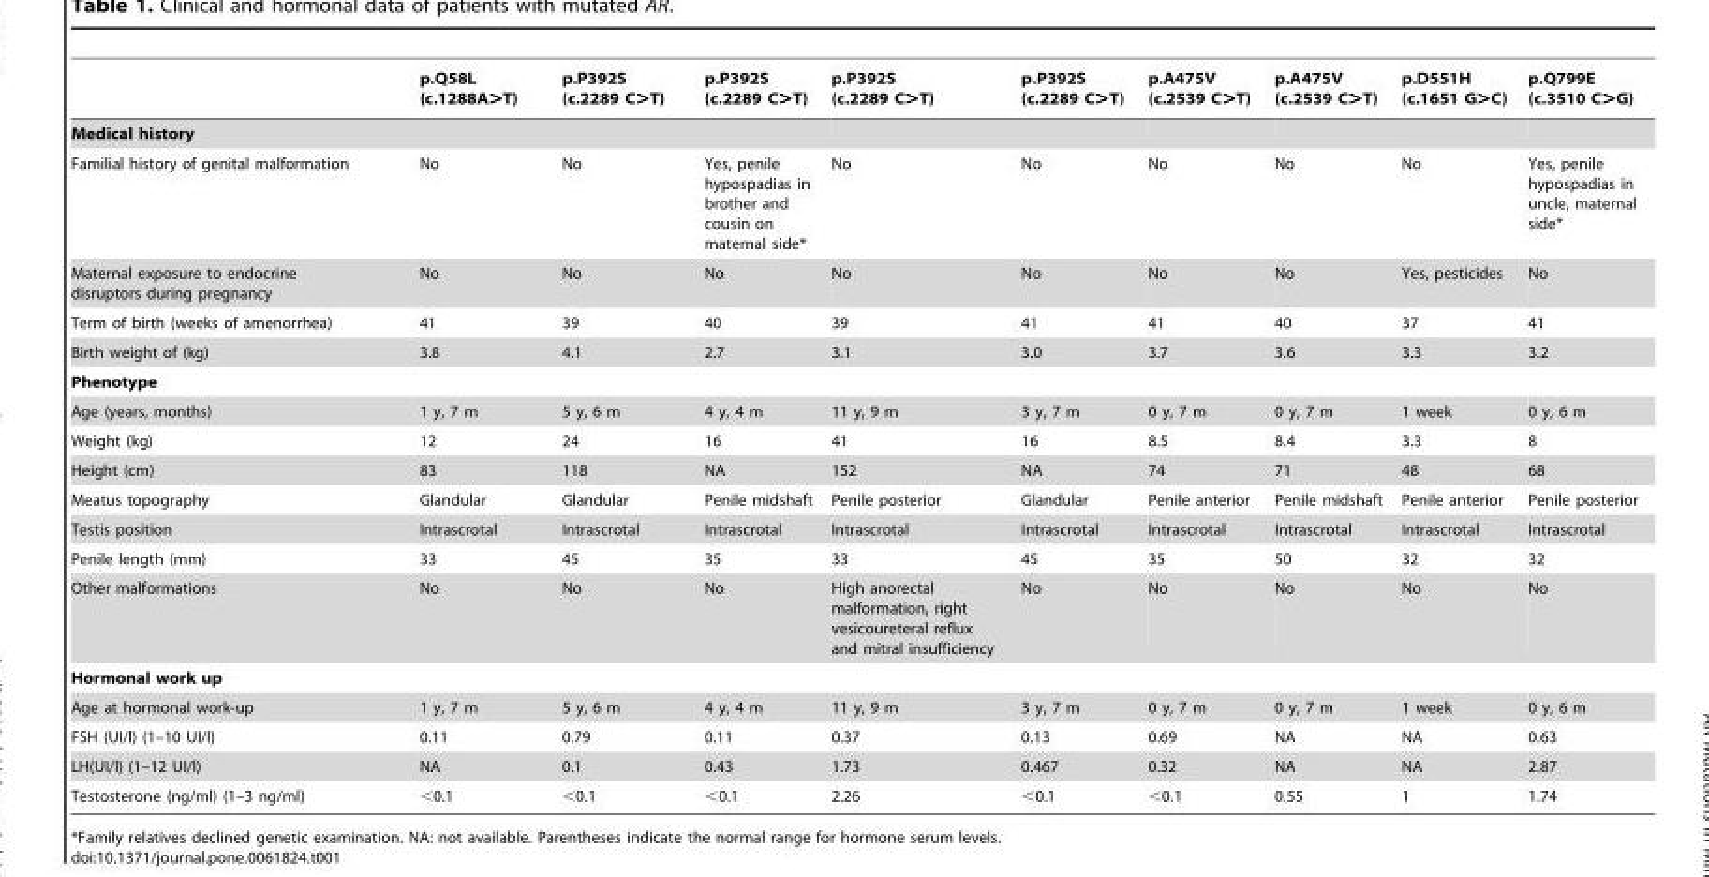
<table><thead><tr><td></td><td>p.Q58L (c.1288A&gt;T)</td><td>p.P392S (c.2289 C&gt;T)</td><td>p.P392S (c.2289 C&gt;T)</td><td>p.P392S (c.2289 C&gt;T)</td><td>p.P392S (c.2289 C&gt;T)</td><td>p.A475V (c.2539 C&gt;T)</td><td>p.A475V (c.2539 C&gt;T)</td><td>p.D551H (c.1651 G&gt;C)</td><td>p.Q799E (c.3510 C&gt;G)</td></tr></thead><tbody><tr><td colspan="10">Medical history</td></tr><tr><td>Familial history of genital malformation</td><td>No</td><td>No</td><td>Yes, penile hypospadias in brother and cousin on maternal side*</td><td>No</td><td>No</td><td>No</td><td>No</td><td>No</td><td>Yes, penile hypospadias in uncle, maternal side*</td></tr><tr><td>Maternal exposure to endocrine disruptors during pregnancy</td><td>No</td><td>No</td><td>No</td><td>No</td><td>No</td><td>No</td><td>No</td><td>Yes, pesticides</td><td>No</td></tr><tr><td>Term of birth (weeks of amenorrhea)</td><td>41</td><td>39</td><td>40</td><td>39</td><td>41</td><td>41</td><td>40</td><td>37</td><td>41</td></tr><tr><td>Birth weight of (kg)</td><td>3.8</td><td>4.1</td><td>2.7</td><td>3.1</td><td>3.0</td><td>3.7</td><td>3.6</td><td>3.3</td><td>3.2</td></tr><tr><td colspan="10">Phenotype</td></tr><tr><td>Age (years, months)</td><td>1 y, 7 m</td><td>5 y, 6 m</td><td>4 y, 4 m</td><td>11 y, 9 m</td><td>3 y, 7 m</td><td>0 y, 7 m</td><td>0 y, 7 m</td><td>1 week</td><td>0 y, 6 m</td></tr><tr><td>Weight (kg)</td><td>12</td><td>24</td><td>16</td><td>41</td><td>16</td><td>8.5</td><td>8.4</td><td>3.3</td><td>8</td></tr><tr><td>Height (cm)</td><td>83</td><td>118</td><td>NA</td><td>152</td><td>NA</td><td>74</td><td>71</td><td>48</td><td>68</td></tr><tr><td>Meatus topography</td><td>Glandular</td><td>Glandular</td><td>Penile midshaft</td><td>Penile posterior</td><td>Glandular</td><td>Penile anterior</td><td>Penile midshaft</td><td>Penile anterior</td><td>Penile posterior</td></tr><tr><td>Testis position</td><td>Intrascrotal</td><td>Intrascrotal</td><td>Intrascrotal</td><td>Intrascrotal</td><td>Intrascrotal</td><td>Intrascrotal</td><td>Intrascrotal</td><td>Intrascrotal</td><td>Intrascrotal</td></tr><tr><td>Penile length (mm)</td><td>33</td><td>45</td><td>35</td><td>33</td><td>45</td><td>35</td><td>50</td><td>32</td><td>32</td></tr><tr><td>Other malformations</td><td>No</td><td>No</td><td>No</td><td>High anorectal malformation, right vesicoureteral reflux and mitral insufficiency</td><td>No</td><td>No</td><td>No</td><td>No</td><td>No</td></tr><tr><td colspan="10">Hormonal work up</td></tr><tr><td>Age at hormonal work-up</td><td>1 y, 7 m</td><td>5 y, 6 m</td><td>4 y, 4 m</td><td>11 y, 9 m</td><td>3 y, 7 m</td><td>0 y, 7 m</td><td>0 y, 7 m</td><td>1 week</td><td>0 y, 6 m</td></tr><tr><td>FSH (UI/l) (1–10 UI/l)</td><td>0.11</td><td>0.79</td><td>0.11</td><td>0.37</td><td>0.13</td><td>0.69</td><td>NA</td><td>NA</td><td>0.63</td></tr><tr><td>LH(UI/l) (1–12 UI/l)</td><td>NA</td><td>0.1</td><td>0.43</td><td>1.73</td><td>0.467</td><td>0.32</td><td>NA</td><td>NA</td><td>2.87</td></tr><tr><td>Testosterone (ng/ml) (1–3 ng/ml)</td><td>&lt;0.1</td><td>&lt;0.1</td><td>&lt;0.1</td><td>2.26</td><td>&lt;0.1</td><td>&lt;0.1</td><td>0.55</td><td>1</td><td>1.74</td></tr></tbody></table>